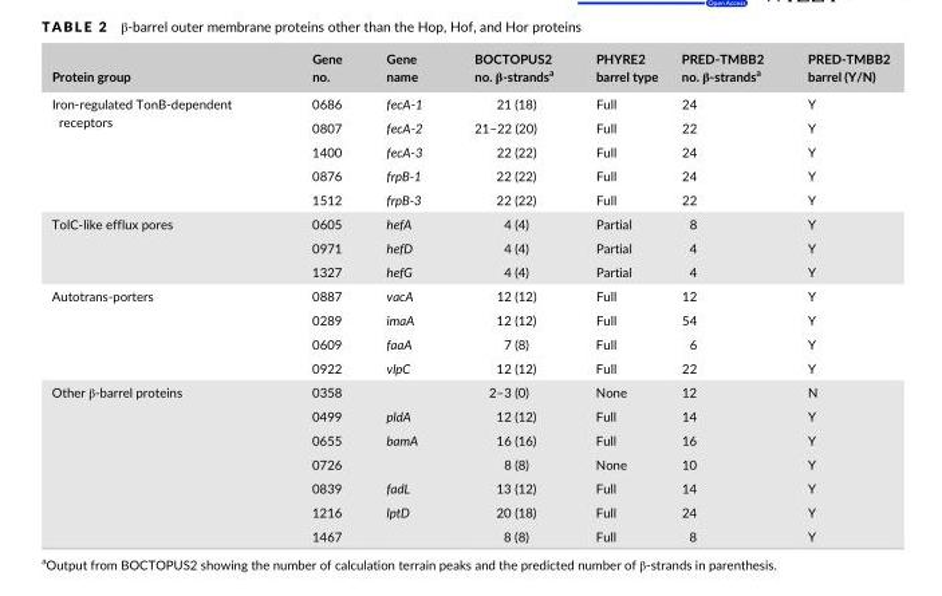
<table><thead><tr><td>Protein group</td><td>Gene no.</td><td>Gene name</td><td>BOCTOPUS2 no. β- strands<sup>a</sup></td><td>PHYRE2 barrel type</td><td>PRED- TMBB2 no. β- strands<sup>a</sup></td><td>PRED- TMBB2 barrel (Y/N)</td></tr></thead><tbody><tr><td rowspan="5">Iron- regulated TonB- dependent receptors</td><td>0686</td><td>fecA-1</td><td>21 (18)</td><td>Full</td><td>24</td><td>Y</td></tr><tr><td>0807</td><td>fecA-2</td><td>21–22 (20)</td><td>Full</td><td>22</td><td>Y</td></tr><tr><td>1400</td><td>fecA-3</td><td>22 (22)</td><td>Full</td><td>24</td><td>Y</td></tr><tr><td>0876</td><td>frpB-1</td><td>22 (22)</td><td>Full</td><td>24</td><td>Y</td></tr><tr><td>1512</td><td>frpB-3</td><td>22 (22)</td><td>Full</td><td>22</td><td>Y</td></tr><tr><td rowspan="3">TolC- like efflux pores</td><td>0605</td><td>hefA</td><td>4 (4)</td><td>Partial</td><td>8</td><td>Y</td></tr><tr><td>0971</td><td>hefD</td><td>4 (4)</td><td>Partial</td><td>4</td><td>Y</td></tr><tr><td>1327</td><td>hefG</td><td>4 (4)</td><td>Partial</td><td>4</td><td>Y</td></tr><tr><td rowspan="4">Autotrans- porters</td><td>0887</td><td>vacA</td><td>12 (12)</td><td>Full</td><td>12</td><td>Y</td></tr><tr><td>0289</td><td>imaA</td><td>12 (12)</td><td>Full</td><td>54</td><td>Y</td></tr><tr><td>0609</td><td>faaA</td><td>7 (8)</td><td>Full</td><td>6</td><td>Y</td></tr><tr><td>0922</td><td>vlpC</td><td>12 (12)</td><td>Full</td><td>22</td><td>Y</td></tr><tr><td rowspan="7">Other β- barrel proteins</td><td>0358</td><td></td><td>2–3 (0)</td><td>None</td><td>12</td><td>N</td></tr><tr><td>0499</td><td>pldA</td><td>12 (12)</td><td>Full</td><td>14</td><td>Y</td></tr><tr><td>0655</td><td>bamA</td><td>16 (16)</td><td>Full</td><td>16</td><td>Y</td></tr><tr><td>0726</td><td></td><td>8 (8)</td><td>None</td><td>10</td><td>Y</td></tr><tr><td>0839</td><td>fadL</td><td>13 (12)</td><td>Full</td><td>14</td><td>Y</td></tr><tr><td>1216</td><td>lptD</td><td>20 (18)</td><td>Full</td><td>24</td><td>Y</td></tr><tr><td>1467</td><td></td><td>8 (8)</td><td>Full</td><td>8</td><td>Y</td></tr></tbody></table>